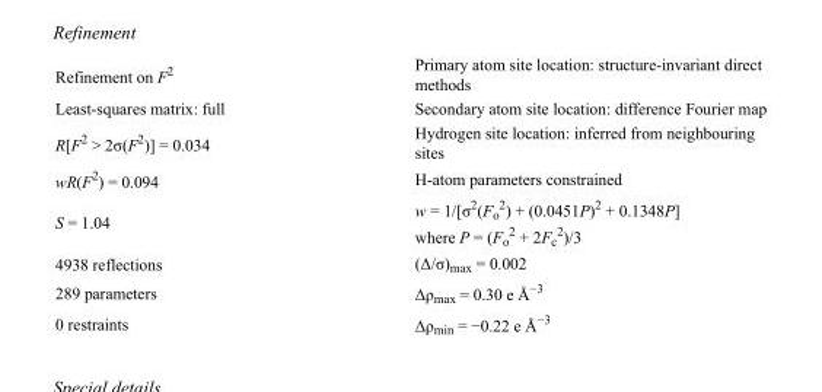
<table><tbody><tr><td>Refinement on F<sup>2</sup></td><td>Primary atom site location: structure-invariant direct methods</td></tr><tr><td>Least-squares matrix: full</td><td>Secondary atom site location: difference Fourier map</td></tr><tr><td>R[F<sup>2</sup> &gt; 2σ(F<sup>2</sup>)] = 0.034</td><td>Hydrogen site location: inferred from neighbouring sites</td></tr><tr><td>wR(F<sup>2</sup>) = 0.094</td><td>H-atom parameters constrained</td></tr><tr><td>S = 1.04</td><td>w = 1/[σ<sup>2</sup>(F<sub>o</sub> <sup>2</sup>) + (0.0451P)<sup>2</sup> + 0.1348P] where P = (F<sub>o</sub> <sup>2</sup> + 2F<sub>c</sub> <sup>2</sup>)/3</td></tr><tr><td>4938 reflections</td><td>(Δ/σ)<sub>max</sub> = 0.002</td></tr><tr><td>289 parameters</td><td>Δρ<sub>max</sub> = 0.30 e Å<sup>−3</sup></td></tr><tr><td>0 restraints</td><td>Δρ<sub>min</sub> = −0.22 e Å<sup>−3</sup></td></tr></tbody></table>